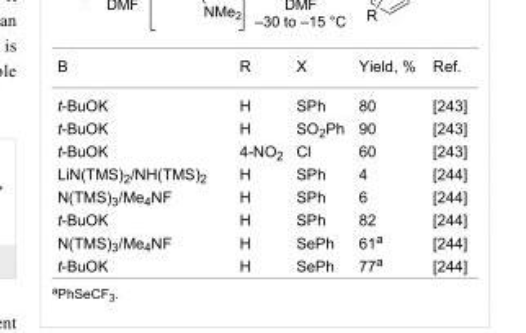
<table><tbody><tr><td>B</td><td>R</td><td>X</td><td>Yield, %</td><td>Ref.</td></tr><tr><td>t-BuOK</td><td>H</td><td>SPh</td><td>80</td><td>[243]</td></tr><tr><td>t-BuOK</td><td>H</td><td>SO<sub>2</sub>Ph</td><td>90</td><td>[243]</td></tr><tr><td>t-BuOK</td><td>4-NO<sub>2</sub></td><td>Cl</td><td>60</td><td>[243]</td></tr><tr><td>LiN(TMS)<sub>2</sub>/NH(TMS)<sub>2</sub></td><td>H</td><td>SPh</td><td>4</td><td>[244]</td></tr><tr><td>N(TMS)<sub>3</sub>/Me<sub>4</sub>NF</td><td>H</td><td>SPh</td><td>6</td><td>[244]</td></tr><tr><td>t-BuOK</td><td>H</td><td>SPh</td><td>82</td><td>[244]</td></tr><tr><td>N(TMS)<sub>3</sub>/Me<sub>4</sub>NF</td><td>H</td><td>SePh</td><td>61<sup>a</sup></td><td>[244]</td></tr><tr><td>t-BuOK</td><td>H</td><td>SePh</td><td>77<sup>a</sup></td><td>[244]</td></tr></tbody></table>